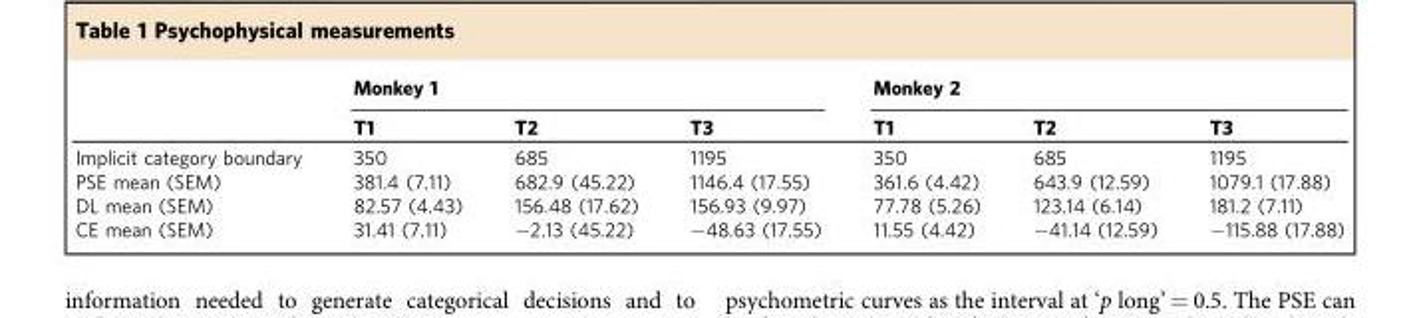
<table><thead><tr><td rowspan="2"></td><td colspan="3">Monkey 1</td><td colspan="3">Monkey 2</td></tr><tr><td>T1</td><td>T2</td><td>T3</td><td>T1</td><td>T2</td><td>T3</td></tr></thead><tbody><tr><td>Implicit category boundary</td><td>350</td><td>685</td><td>1195</td><td>350</td><td>685</td><td>1195</td></tr><tr><td>PSE mean (SEM)</td><td>381.4 (7.11)</td><td>682.9 (45.22)</td><td>1146.4 (17.55)</td><td>361.6 (4.42)</td><td>643.9 (12.59)</td><td>1079.1 (17.88)</td></tr><tr><td>DL mean (SEM)</td><td>82.57 (4.43)</td><td>156.48 (17.62)</td><td>156.93 (9.97)</td><td>77.78 (5.26)</td><td>123.14 (6.14)</td><td>181.2 (7.11)</td></tr><tr><td>CE mean (SEM)</td><td>31.41 (7.11)</td><td>−2.13 (45.22)</td><td>−48.63 (17.55)</td><td>11.55 (4.42)</td><td>−41.14 (12.59)</td><td>−115.88 (17.88)</td></tr></tbody></table>